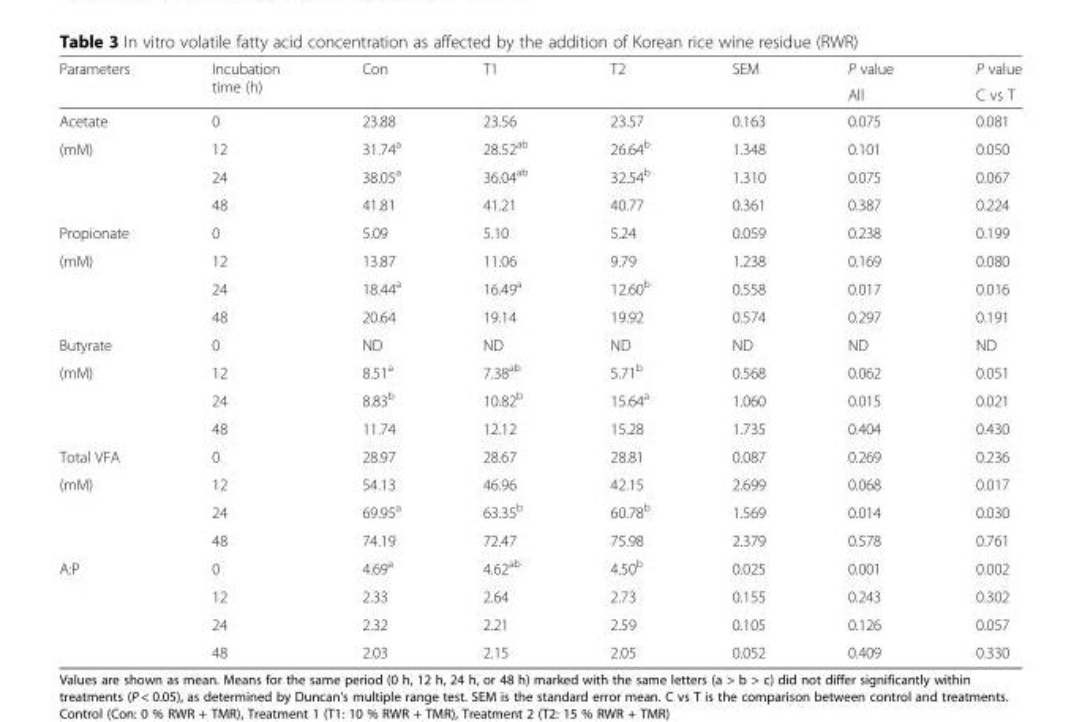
<table><thead><tr><td rowspan="2">Parameters</td><td rowspan="2">Incubation time (h)</td><td rowspan="2">Con</td><td rowspan="2">T1</td><td rowspan="2">T2</td><td rowspan="2">SEM</td><td rowspan="2">P value All</td><td rowspan="2">P value C vs T</td></tr><tr></tr></thead><tbody><tr><td>Acetate</td><td>0</td><td>23.88</td><td>23.56</td><td>23.57</td><td>0.163</td><td>0.075</td><td>0.081</td></tr><tr><td rowspan="3">(mM)</td><td>12</td><td>31.74<sup>a</sup></td><td>28.52<sup>ab</sup></td><td>26.64<sup>b</sup></td><td>1.348</td><td>0.101</td><td>0.050</td></tr><tr><td>24</td><td>38.05<sup>a</sup></td><td>36.04<sup>ab</sup></td><td>32.54<sup>b</sup></td><td>1.310</td><td>0.075</td><td>0.067</td></tr><tr><td>48</td><td>41.81</td><td>41.21</td><td>40.77</td><td>0.361</td><td>0.387</td><td>0.224</td></tr><tr><td>Propionate</td><td>0</td><td>5.09</td><td>5.10</td><td>5.24</td><td>0.059</td><td>0.238</td><td>0.199</td></tr><tr><td rowspan="3">(mM)</td><td>12</td><td>13.87</td><td>11.06</td><td>9.79</td><td>1.238</td><td>0.169</td><td>0.080</td></tr><tr><td>24</td><td>18.44<sup>a</sup></td><td>16.49<sup>a</sup></td><td>12.60<sup>b</sup></td><td>0.558</td><td>0.017</td><td>0.016</td></tr><tr><td>48</td><td>20.64</td><td>19.14</td><td>19.92</td><td>0.574</td><td>0.297</td><td>0.191</td></tr><tr><td>Butyrate</td><td>0</td><td>ND</td><td>ND</td><td>ND</td><td>ND</td><td>ND</td><td>ND</td></tr><tr><td rowspan="3">(mM)</td><td>12</td><td>8.51<sup>a</sup></td><td>7.38<sup>ab</sup></td><td>5.71<sup>b</sup></td><td>0.568</td><td>0.062</td><td>0.051</td></tr><tr><td>24</td><td>8.83<sup>b</sup></td><td>10.82<sup>b</sup></td><td>15.64<sup>a</sup></td><td>1.060</td><td>0.015</td><td>0.021</td></tr><tr><td>48</td><td>11.74</td><td>12.12</td><td>15.28</td><td>1.735</td><td>0.404</td><td>0.430</td></tr><tr><td>Total VFA</td><td>0</td><td>28.97</td><td>28.67</td><td>28.81</td><td>0.087</td><td>0.269</td><td>0.236</td></tr><tr><td rowspan="3">(mM)</td><td>12</td><td>54.13</td><td>46.96</td><td>42.15</td><td>2.699</td><td>0.068</td><td>0.017</td></tr><tr><td>24</td><td>69.95<sup>a</sup></td><td>63.35<sup>b</sup></td><td>60.78<sup>b</sup></td><td>1.569</td><td>0.014</td><td>0.030</td></tr><tr><td>48</td><td>74.19</td><td>72.47</td><td>75.98</td><td>2.379</td><td>0.578</td><td>0.761</td></tr><tr><td rowspan="4">A:P</td><td>0</td><td>4.69<sup>a</sup></td><td>4.62<sup>ab</sup></td><td>4.50<sup>b</sup></td><td>0.025</td><td>0.001</td><td>0.002</td></tr><tr><td>12</td><td>2.33</td><td>2.64</td><td>2.73</td><td>0.155</td><td>0.243</td><td>0.302</td></tr><tr><td>24</td><td>2.32</td><td>2.21</td><td>2.59</td><td>0.105</td><td>0.126</td><td>0.057</td></tr><tr><td>48</td><td>2.03</td><td>2.15</td><td>2.05</td><td>0.052</td><td>0.409</td><td>0.330</td></tr></tbody></table>